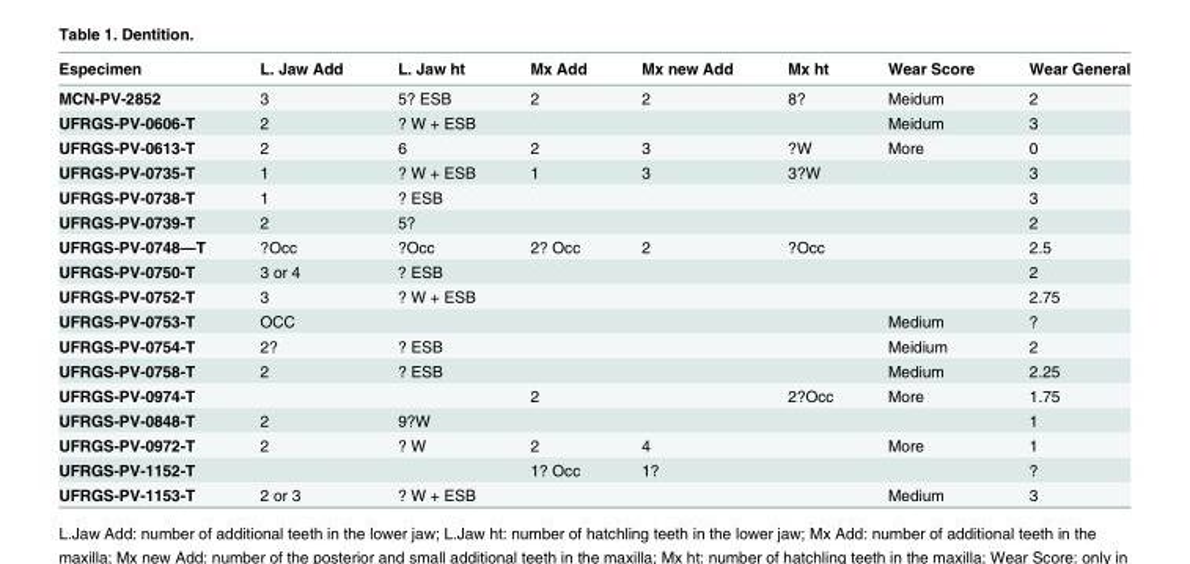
<table><thead><tr><td>Especimen</td><td>L. Jaw Add</td><td>L. Jaw ht</td><td>Mx Add</td><td>Mx new Add</td><td>Mx ht</td><td>Wear Score</td><td>Wear General</td></tr></thead><tbody><tr><td>MCN-PV-2852</td><td>3</td><td>5? ESB</td><td>2</td><td>2</td><td>8?</td><td>Meidum</td><td>2</td></tr><tr><td>UFRGS-PV-0606-T</td><td>2</td><td>? W + ESB</td><td></td><td></td><td></td><td>Meidum</td><td>3</td></tr><tr><td>UFRGS-PV-0613-T</td><td>2</td><td>6</td><td>2</td><td>3</td><td>?W</td><td>More</td><td>0</td></tr><tr><td>UFRGS-PV-0735-T</td><td>1</td><td>? W + ESB</td><td>1</td><td>3</td><td>3?W</td><td></td><td>3</td></tr><tr><td>UFRGS-PV-0738-T</td><td>1</td><td>? ESB</td><td></td><td></td><td></td><td></td><td>3</td></tr><tr><td>UFRGS-PV-0739-T</td><td>2</td><td>5?</td><td></td><td></td><td></td><td></td><td>2</td></tr><tr><td>UFRGS-PV-0748—T</td><td>?Occ</td><td>?Occ</td><td>2? Occ</td><td>2</td><td>?Occ</td><td></td><td>2.5</td></tr><tr><td>UFRGS-PV-0750-T</td><td>3 or 4</td><td>? ESB</td><td></td><td></td><td></td><td></td><td>2</td></tr><tr><td>UFRGS-PV-0752-T</td><td>3</td><td>? W + ESB</td><td></td><td></td><td></td><td></td><td>2.75</td></tr><tr><td>UFRGS-PV-0753-T</td><td>OCC</td><td></td><td></td><td></td><td></td><td>Medium</td><td>?</td></tr><tr><td>UFRGS-PV-0754-T</td><td>2?</td><td>? ESB</td><td></td><td></td><td></td><td>Meidium</td><td>2</td></tr><tr><td>UFRGS-PV-0758-T</td><td>2</td><td>? ESB</td><td></td><td></td><td></td><td>Medium</td><td>2.25</td></tr><tr><td>UFRGS-PV-0974-T</td><td></td><td></td><td>2</td><td></td><td>2?Occ</td><td>More</td><td>1.75</td></tr><tr><td>UFRGS-PV-0848-T</td><td>2</td><td>9?W</td><td></td><td></td><td></td><td></td><td>1</td></tr><tr><td>UFRGS-PV-0972-T</td><td>2</td><td>? W</td><td>2</td><td>4</td><td></td><td>More</td><td>1</td></tr><tr><td>UFRGS-PV-1152-T</td><td></td><td></td><td>1? Occ</td><td>1?</td><td></td><td></td><td>?</td></tr><tr><td>UFRGS-PV-1153-T</td><td>2 or 3</td><td>? W + ESB</td><td></td><td></td><td></td><td>Medium</td><td>3</td></tr></tbody></table>